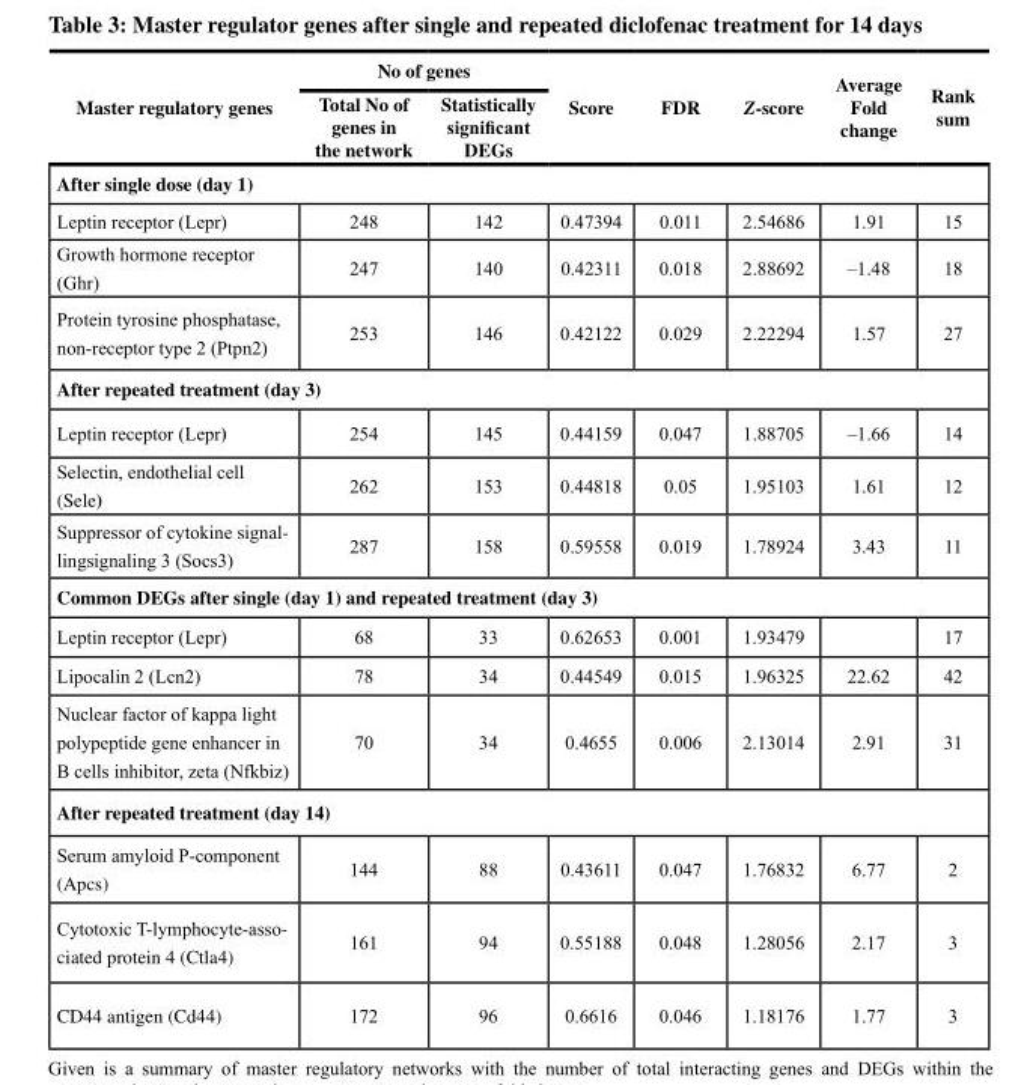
<table><thead><tr><td rowspan="2">Master regulatory genes</td><td colspan="2">No of genes</td><td rowspan="2">Score</td><td rowspan="2">FDR</td><td rowspan="2">Z-score</td><td rowspan="2">Average Fold change</td><td rowspan="2">Rank sum</td></tr><tr><td>Total No of genes in the network</td><td>Statistically significant DEGs</td></tr></thead><tbody><tr><td colspan="8">After single dose (day 1)</td></tr><tr><td>Leptin receptor (Lepr)</td><td>248</td><td>142</td><td>0.47394</td><td>0.011</td><td>2.54686</td><td>1.91</td><td>15</td></tr><tr><td>Growth hormone receptor (Ghr)</td><td>247</td><td>140</td><td>0.42311</td><td>0.018</td><td>2.88692</td><td>–1.48</td><td>18</td></tr><tr><td>Protein tyrosine phosphatase, non-receptor type 2 (Ptpn2)</td><td>253</td><td>146</td><td>0.42122</td><td>0.029</td><td>2.22294</td><td>1.57</td><td>27</td></tr><tr><td colspan="8">After repeated treatment (day 3)</td></tr><tr><td>Leptin receptor (Lepr)</td><td>254</td><td>145</td><td>0.44159</td><td>0.047</td><td>1.88705</td><td>–1.66</td><td>14</td></tr><tr><td>Selectin, endothelial cell (Sele)</td><td>262</td><td>153</td><td>0.44818</td><td>0.05</td><td>1.95103</td><td>1.61</td><td>12</td></tr><tr><td>Suppressor of cytokine signal- lingsignaling 3 (Socs3)</td><td>287</td><td>158</td><td>0.59558</td><td>0.019</td><td>1.78924</td><td>3.43</td><td>11</td></tr><tr><td colspan="8">Common DEGs after single (day 1) and repeated treatment (day 3)</td></tr><tr><td>Leptin receptor (Lepr)</td><td>68</td><td>33</td><td>0.62653</td><td>0.001</td><td>1.93479</td><td></td><td>17</td></tr><tr><td>Lipocalin 2 (Lcn2)</td><td>78</td><td>34</td><td>0.44549</td><td>0.015</td><td>1.96325</td><td>22.62</td><td>42</td></tr><tr><td>Nuclear factor of kappa light polypeptide gene enhancer in B cells inhibitor, zeta (Nfkbiz)</td><td>70</td><td>34</td><td>0.4655</td><td>0.006</td><td>2.13014</td><td>2.91</td><td>31</td></tr><tr><td colspan="8">After repeated treatment (day 14)</td></tr><tr><td>Serum amyloid P-component (Apcs)</td><td>144</td><td>88</td><td>0.43611</td><td>0.047</td><td>1.76832</td><td>6.77</td><td>2</td></tr><tr><td>Cytotoxic T-lymphocyte-asso- ciated protein 4 (Ctla4)</td><td>161</td><td>94</td><td>0.55188</td><td>0.048</td><td>1.28056</td><td>2.17</td><td>3</td></tr><tr><td>CD44 antigen (Cd44)</td><td>172</td><td>96</td><td>0.6616</td><td>0.046</td><td>1.18176</td><td>1.77</td><td>3</td></tr></tbody></table>